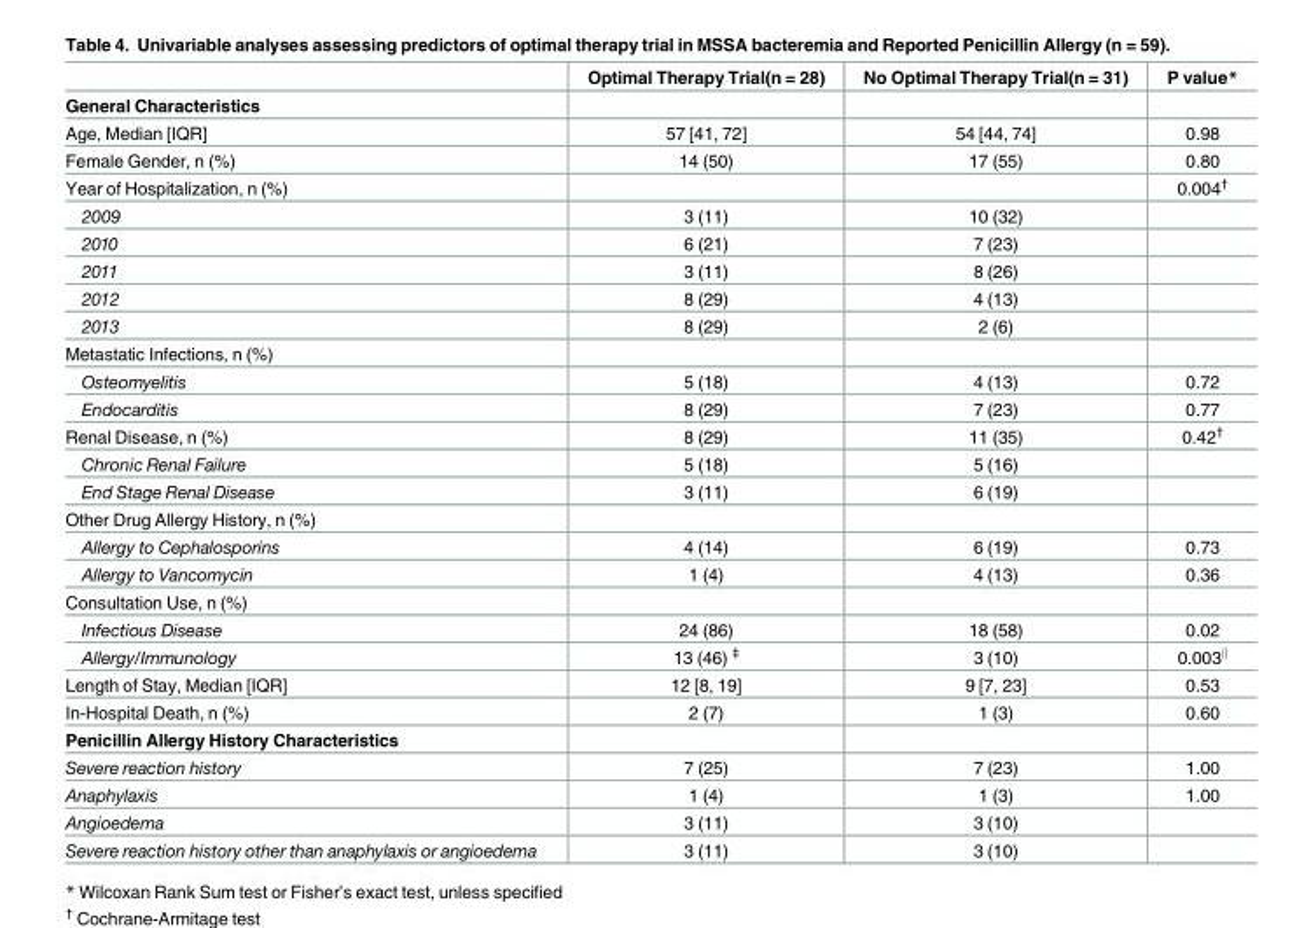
<table><thead><tr><td></td><td>Optimal Therapy Trial(n = 28)</td><td>No Optimal Therapy Trial(n = 31)</td><td>P value*</td></tr></thead><tbody><tr><td colspan="4">General Characteristics</td></tr><tr><td>Age, Median [IQR]</td><td>57 [41, 72]</td><td>54 [44, 74]</td><td>0.98</td></tr><tr><td>Female Gender, n (%)</td><td>14 (50)</td><td>17 (55)</td><td>0.80</td></tr><tr><td>Year of Hospitalization, n (%)</td><td></td><td></td><td>0.004<sup>†</sup></td></tr><tr><td>2009</td><td>3 (11)</td><td>10 (32)</td><td></td></tr><tr><td>2010</td><td>6 (21)</td><td>7 (23)</td><td></td></tr><tr><td>2011</td><td>3 (11)</td><td>8 (26)</td><td></td></tr><tr><td>2012</td><td>8 (29)</td><td>4 (13)</td><td></td></tr><tr><td>2013</td><td>8 (29)</td><td>2 (6)</td><td></td></tr><tr><td colspan="4">Metastatic Infections, n (%)</td></tr><tr><td>Osteomyelitis</td><td>5 (18)</td><td>4 (13)</td><td>0.72</td></tr><tr><td>Endocarditis</td><td>8 (29)</td><td>7 (23)</td><td>0.77</td></tr><tr><td>Renal Disease, n (%)</td><td>8 (29)</td><td>11 (35)</td><td>0.42<sup>†</sup></td></tr><tr><td>Chronic Renal Failure</td><td>5 (18)</td><td>5 (16)</td><td></td></tr><tr><td>End Stage Renal Disease</td><td>3 (11)</td><td>6 (19)</td><td></td></tr><tr><td colspan="4">Other Drug Allergy History, n (%)</td></tr><tr><td>Allergy to Cephalosporins</td><td>4 (14)</td><td>6 (19)</td><td>0.73</td></tr><tr><td>Allergy to Vancomycin</td><td>1 (4)</td><td>4 (13)</td><td>0.36</td></tr><tr><td colspan="4">Consultation Use, n (%)</td></tr><tr><td>Infectious Disease</td><td>24 (86)</td><td>18 (58)</td><td>0.02</td></tr><tr><td>Allergy/Immunology</td><td>13 (46) <sup>‡</sup></td><td>3 (10)</td><td>0.003k</td></tr><tr><td>Length of Stay, Median [IQR]</td><td>12 [8, 19]</td><td>9 [7, 23]</td><td>0.53</td></tr><tr><td>In-Hospital Death, n (%)</td><td>2 (7)</td><td>1 (3)</td><td>0.60</td></tr><tr><td colspan="4">Penicillin Allergy History Characteristics</td></tr><tr><td>Severe reaction history</td><td>7 (25)</td><td>7 (23)</td><td>1.00</td></tr><tr><td>Anaphylaxis</td><td>1 (4)</td><td>1 (3)</td><td>1.00</td></tr><tr><td>Angioedema</td><td>3 (11)</td><td>3 (10)</td><td></td></tr><tr><td>Severe reaction history other than anaphylaxis or angioedema</td><td>3 (11)</td><td>3 (10)</td><td></td></tr></tbody></table>